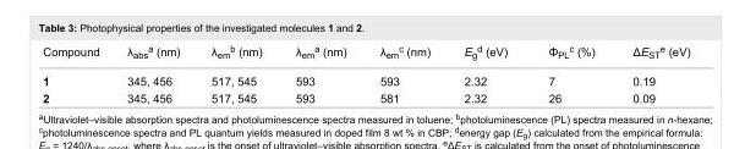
<table><tbody><tr><td>Compound</td><td>λ<sub>abs</sub><sup>a</sup> (nm)</td><td>λ<sub>em</sub><sup>b</sup> (nm)</td><td>λ<sub>em</sub><sup>a</sup> (nm)</td><td>λ<sub>em</sub><sup>c</sup> (nm)</td><td>E<sub>g</sub><sup>d</sup> (eV)</td><td>Φ<sub>PL</sub><sup>c</sup> (%)</td><td>ΔE<sub>ST</sub><sup>e</sup> (eV)</td></tr><tr><td>1</td><td>345, 456</td><td>517, 545</td><td>593</td><td>593</td><td>2.32</td><td>7</td><td>0.19</td></tr><tr><td>2</td><td>345, 456</td><td>517, 545</td><td>593</td><td>581</td><td>2.32</td><td>26</td><td>0.09</td></tr></tbody></table>